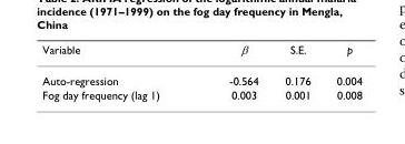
<table><thead><tr><td>Variable</td><td>β</td><td>S.E.</td><td>p</td></tr></thead><tbody><tr><td>Auto-regression</td><td>-0.564</td><td>0.176</td><td>0.004</td></tr><tr><td>Fog day frequency (lag 1)</td><td>0.003</td><td>0.001</td><td>0.008</td></tr></tbody></table>